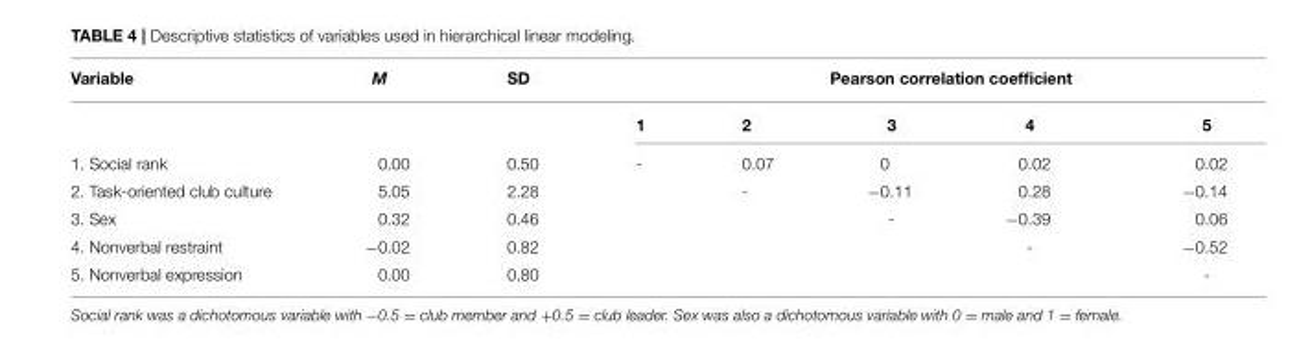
<table><thead><tr><td rowspan="2">Variable</td><td rowspan="2">M</td><td rowspan="2">SD</td><td colspan="5">Pearson correlation coefficient</td></tr><tr><td>1</td><td>2</td><td>3</td><td>4</td><td>5</td></tr></thead><tbody><tr><td>1. Social rank</td><td>0.00</td><td>0.50</td><td>-</td><td>0.07</td><td>0</td><td>0.02</td><td>0.02</td></tr><tr><td>2. Task-oriented club culture</td><td>5.05</td><td>2.28</td><td></td><td>-</td><td>−0.11</td><td>0.28</td><td>−0.14</td></tr><tr><td>3. Sex</td><td>0.32</td><td>0.46</td><td></td><td></td><td>-</td><td>−0.39</td><td>0.06</td></tr><tr><td>4. Nonverbal restraint</td><td>−0.02</td><td>0.82</td><td></td><td></td><td></td><td>-</td><td>−0.52</td></tr><tr><td>5. Nonverbal expression</td><td>0.00</td><td>0.80</td><td></td><td></td><td></td><td></td><td>-</td></tr></tbody></table>